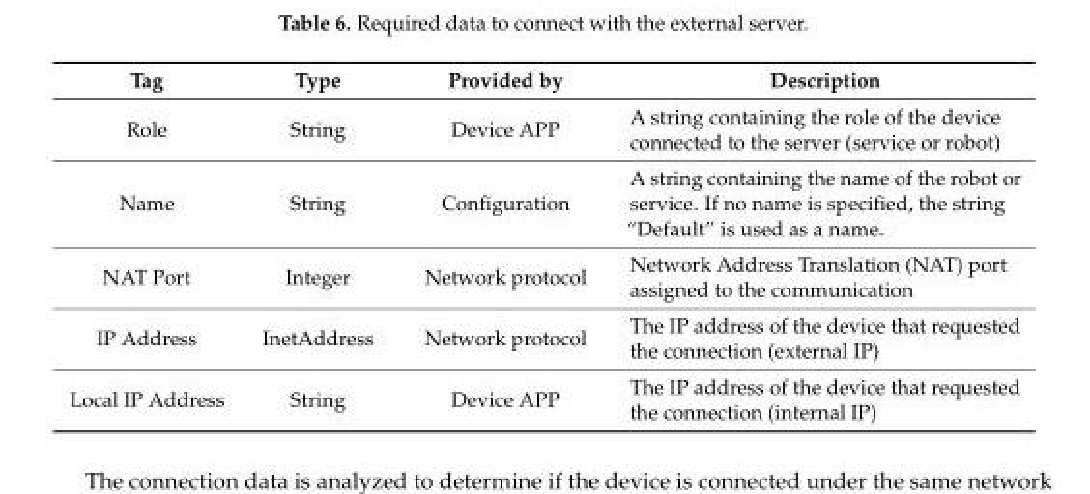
<table><thead><tr><td>Tag</td><td>Type</td><td>Provided by</td><td>Description</td></tr></thead><tbody><tr><td>Role</td><td>String</td><td>Device APP</td><td>A string containing the role of the device connected to the server (service or robot)</td></tr><tr><td>Name</td><td>String</td><td>Configuration</td><td>A string containing the name of the robot or service. If no name is specified, the string “Default” is used as a name.</td></tr><tr><td>NAT Port</td><td>Integer</td><td>Network protocol</td><td>Network Address Translation (NAT) port assigned to the communication</td></tr><tr><td>IP Address</td><td>InetAddress</td><td>Network protocol</td><td>The IP address of the device that requested the connection (external IP)</td></tr><tr><td>Local IP Address</td><td>String</td><td>Device APP</td><td>The IP address of the device that requested the connection (internal IP)</td></tr></tbody></table>